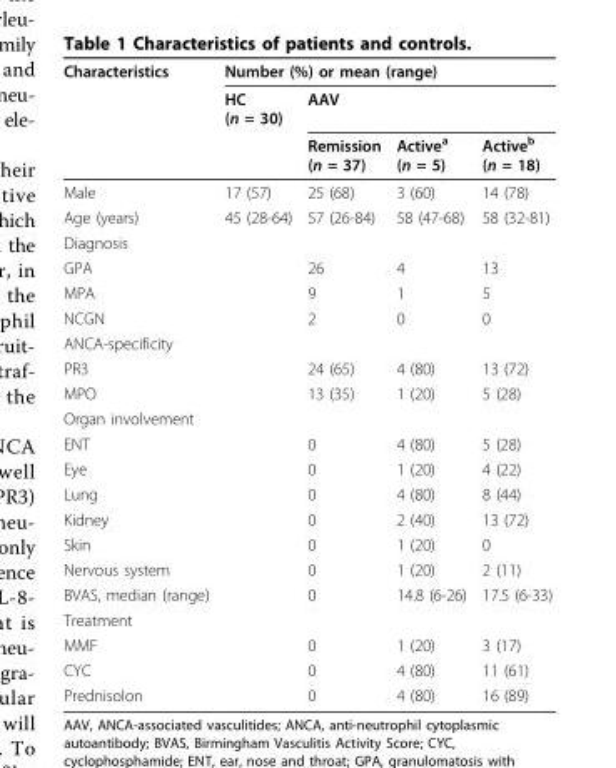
<table><thead><tr><td rowspan="3">Characteristics</td><td colspan="4">Number (%) or mean (range)</td></tr><tr><td rowspan="2">HC (n = 30)</td><td colspan="3">AAV</td></tr><tr><td>Remission (n = 37)</td><td>Active<sup>a</sup> (n = 5)</td><td>Active<sup>b</sup> (n = 18)</td></tr></thead><tbody><tr><td>Male</td><td>17 (57)</td><td>25 (68)</td><td>3 (60)</td><td>14 (78)</td></tr><tr><td>Age (years)</td><td>45 (28-64)</td><td>57 (26-84)</td><td>58 (47-68)</td><td>58 (32-81)</td></tr><tr><td colspan="5">Diagnosis</td></tr><tr><td>GPA</td><td></td><td>26</td><td>4</td><td>13</td></tr><tr><td>MPA</td><td></td><td>9</td><td>1</td><td>5</td></tr><tr><td>NCGN</td><td></td><td>2</td><td>0</td><td>0</td></tr><tr><td colspan="5">ANCA-specificity</td></tr><tr><td>PR3</td><td></td><td>24 (65)</td><td>4 (80)</td><td>13 (72)</td></tr><tr><td>MPO</td><td></td><td>13 (35)</td><td>1 (20)</td><td>5 (28)</td></tr><tr><td colspan="5">Organ involvement</td></tr><tr><td>ENT</td><td></td><td>0</td><td>4 (80)</td><td>5 (28)</td></tr><tr><td>Eye</td><td></td><td>0</td><td>1 (20)</td><td>4 (22)</td></tr><tr><td>Lung</td><td></td><td>0</td><td>4 (80)</td><td>8 (44)</td></tr><tr><td>Kidney</td><td></td><td>0</td><td>2 (40)</td><td>13 (72)</td></tr><tr><td>Skin</td><td></td><td>0</td><td>1 (20)</td><td>0</td></tr><tr><td>Nervous system</td><td></td><td>0</td><td>1 (20)</td><td>2 (11)</td></tr><tr><td>BVAS, median (range)</td><td></td><td>0</td><td>14.8 (6-26)</td><td>17.5 (6-33)</td></tr><tr><td colspan="5">Treatment</td></tr><tr><td>MMF</td><td></td><td>0</td><td>1 (20)</td><td>3 (17)</td></tr><tr><td>CYC</td><td></td><td>0</td><td>4 (80)</td><td>11 (61)</td></tr><tr><td>Prednisolon</td><td></td><td>0</td><td>4 (80)</td><td>16 (89)</td></tr></tbody></table>